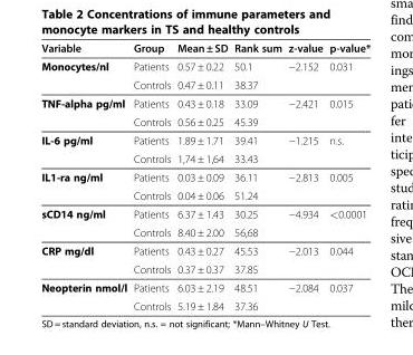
<table><thead><tr><td>Variable</td><td>Group</td><td>Mean ± SD</td><td>Rank sum</td><td>z-value</td><td>p-value*</td></tr></thead><tbody><tr><td rowspan="2">Monocytes/nl</td><td>Patients</td><td>0.57 ± 0.22</td><td>50.1</td><td>−2.152</td><td>0.031</td></tr><tr><td>Controls</td><td>0.47 ± 0.11</td><td>38.37</td><td></td><td></td></tr><tr><td rowspan="2">TNF-alpha pg/ml</td><td>Patients</td><td>0.43 ± 0.18</td><td>33.09</td><td>−2.421</td><td>0.015</td></tr><tr><td>Controls</td><td>0.56 ± 0.25</td><td>45.39</td><td></td><td></td></tr><tr><td rowspan="2">IL-6 pg/ml</td><td>Patients</td><td>1.89 ± 1.71</td><td>39.41</td><td>−1.215</td><td>n.s.</td></tr><tr><td>Controls</td><td>1,74 ± 1,64</td><td>33.43</td><td></td><td></td></tr><tr><td rowspan="2">IL1-ra ng/ml</td><td>Patients</td><td>0.03 ± 0.09</td><td>36.11</td><td>−2.813</td><td>0.005</td></tr><tr><td>Controls</td><td>0.04 ± 0.06</td><td>51.24</td><td></td><td></td></tr><tr><td rowspan="2">sCD14 ng/ml</td><td>Patients</td><td>6.37 ± 1.43</td><td>30.25</td><td>−4.934</td><td>&lt;0.0001</td></tr><tr><td>Controls</td><td>8.40 ± 2.00</td><td>56,68</td><td></td><td></td></tr><tr><td rowspan="2">CRP mg/dl</td><td>Patients</td><td>0.43 ± 0.27</td><td>45.53</td><td>−2.013</td><td>0.044</td></tr><tr><td>Controls</td><td>0.37 ± 0.37</td><td>37.85</td><td></td><td></td></tr><tr><td rowspan="2">Neopterin nmol/l</td><td>Patients</td><td>6.03 ± 2.19</td><td>48.51</td><td>−2.084</td><td>0.037</td></tr><tr><td>Controls</td><td>5.19 ± 1.84</td><td>37.36</td><td></td><td></td></tr></tbody></table>